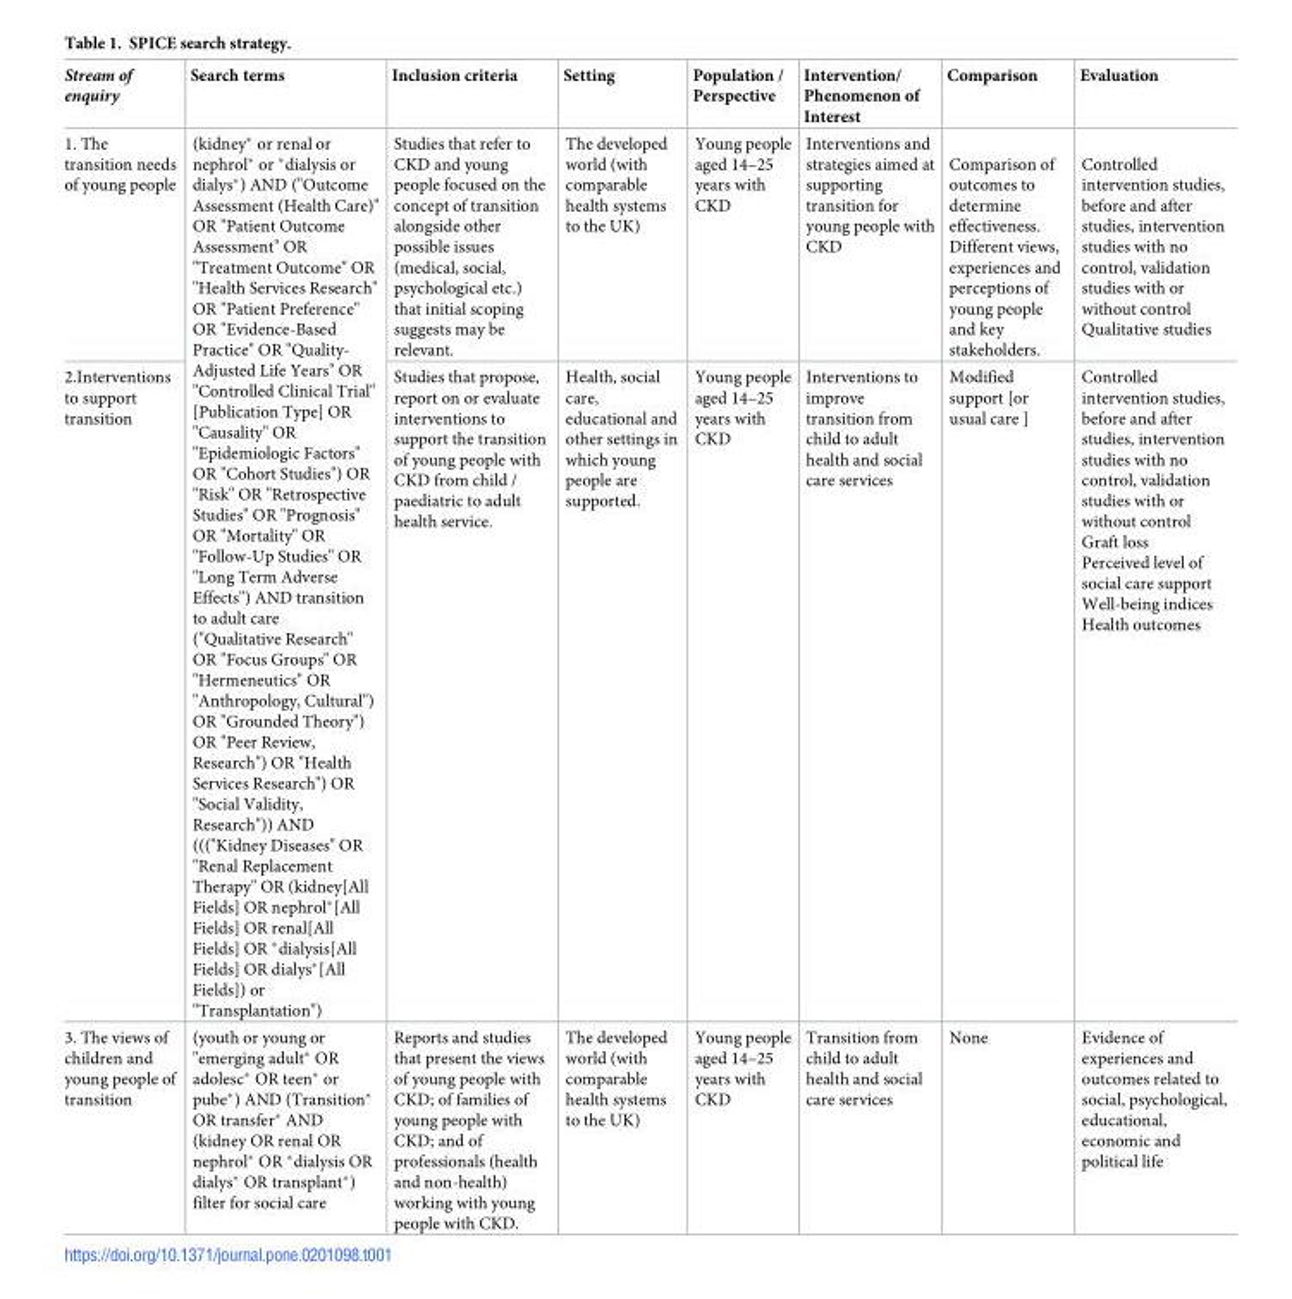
<table><thead><tr><td>Stream of enquiry</td><td>Search terms</td><td>Inclusion criteria</td><td>Setting</td><td>Population / Perspective</td><td>Intervention/ Phenomenon of Interest</td><td>Comparison</td><td>Evaluation</td></tr></thead><tbody><tr><td>1. The transition needs of young people</td><td rowspan="2">(kidney* or renal or nephrol* or *dialysis or dialys*) AND (&quot;Outcome Assessment (Health Care)&quot; OR &quot;Patient Outcome Assessment&quot; OR &quot;Treatment Outcome&quot; OR &quot;Health Services Research&quot; OR &quot;Patient Preference&quot; OR &quot;Evidence-Based Practice&quot; OR &quot;Quality- Adjusted Life Years&quot; OR &quot;Controlled Clinical Trial&quot; [Publication Type] OR &quot;Causality&quot; OR &quot;Epidemiologic Factors&quot; OR &quot;Cohort Studies&quot;) OR &quot;Risk&quot; OR &quot;Retrospective Studies&quot; OR &quot;Prognosis&quot; OR &quot;Mortality&quot; OR &quot;Follow-Up Studies&quot; OR &quot;Long Term Adverse Effects&quot;) AND transition to adult care (&quot;Qualitative Research&quot; OR &quot;Focus Groups&quot; OR &quot;Hermeneutics&quot; OR &quot;Anthropology, Cultural&quot;) OR &quot;Grounded Theory&quot;) OR &quot;Peer Review, Research&quot;) OR &quot;Health Services Research&quot;) OR &quot;Social Validity, Research&quot;)) AND (((&quot;Kidney Diseases&quot; OR &quot;Renal Replacement Therapy&quot; OR (kidney[All Fields] OR nephrol*[All Fields] OR renal[All Fields] OR *dialysis[All Fields] OR dialys*[All Fields]) or &quot;Transplantation&quot;)</td><td>Studies that refer to CKD and young people focused on the concept of transition alongside other possible issues (medical, social, psychological etc.) that initial scoping suggests may be relevant.</td><td>The developed world (with comparable health systems to the UK)</td><td>Young people aged 14–25 years with CKD</td><td>Interventions and strategies aimed at supporting transition for young people with CKD</td><td>Comparison of outcomes to determine effectiveness. Different views, experiences and perceptions of young people and key stakeholders.</td><td>Controlled intervention studies, before and after studies, intervention studies with no control, validation studies with or without control Qualitative studies</td></tr><tr><td>2.Interventions to support transition</td><td>Studies that propose, report on or evaluate interventions to support the transition of young people with CKD from child / paediatric to adult health service.</td><td>Health, social care, educational and other settings in which young people are supported.</td><td>Young people aged 14–25 years with CKD</td><td>Interventions to improve transition from child to adult health and social care services</td><td>Modified support [or usual care ]</td><td>Controlled intervention studies, before and after studies, intervention studies with no control, validation studies with or without control Graft loss Perceived level of social care support Well-being indices Health outcomes</td></tr><tr><td>3. The views of children and young people of transition</td><td>(youth or young or &quot;emerging adult* OR adolesc* OR teen* or pube*) AND (Transition* OR transfer* AND (kidney OR renal OR nephrol* OR *dialysis OR dialys* OR transplant*) filter for social care</td><td>Reports and studies that present the views of young people with CKD; of families of young people with CKD; and of professionals (health and non-health) working with young people with CKD.</td><td>The developed world (with comparable health systems to the UK)</td><td>Young people aged 14–25 years with CKD</td><td>Transition from child to adult health and social care services</td><td>None</td><td>Evidence of experiences and outcomes related to social, psychological, educational, economic and political life</td></tr></tbody></table>